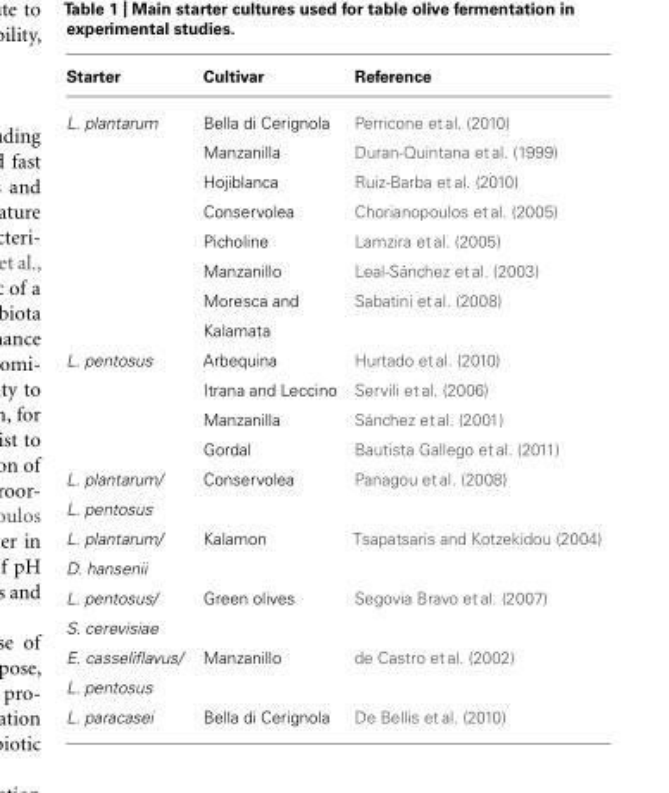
<table><thead><tr><td>Starter</td><td>Cultivar</td><td>Reference</td></tr></thead><tbody><tr><td rowspan="8">L. plantarum</td><td>Bella di Cerignola</td><td>Perricone et al. (2010)</td></tr><tr><td>Manzanilla</td><td>Duran-Quintana et al. (1999)</td></tr><tr><td>Hojiblanca</td><td>Ruiz-Barba et al. (2010)</td></tr><tr><td>Conservolea</td><td>Chorianopoulos et al. (2005)</td></tr><tr><td>Picholine</td><td>Lamzira et al. (2005)</td></tr><tr><td>Manzanillo</td><td>Leal-Sánchez et al. (2003)</td></tr><tr><td>Moresca and</td><td>Sabatini et al. (2008)</td></tr><tr><td>Kalamata</td><td></td></tr><tr><td rowspan="4">L. pentosus</td><td>Arbequina</td><td>Hurtado et al. (2010)</td></tr><tr><td>Itrana and Leccino</td><td>Servili et al. (2006)</td></tr><tr><td>Manzanilla</td><td>Sánchez et al. (2001)</td></tr><tr><td>Gordal</td><td>Bautista Gallego et al. (2011)</td></tr><tr><td>L. plantarum/</td><td>Conservolea</td><td>Panagou et al. (2008)</td></tr><tr><td colspan="3">L. pentosus</td></tr><tr><td>L. plantarum/</td><td>Kalamon</td><td>Tsapatsaris and Kotzekidou (2004)</td></tr><tr><td colspan="3">D. hansenii</td></tr><tr><td>L. pentosus/</td><td>Green olives</td><td>Segovia Bravo et al. (2007)</td></tr><tr><td colspan="3">S. cerevisiae</td></tr><tr><td>E. casseliflavus/</td><td>Manzanillo</td><td>de Castro et al. (2002)</td></tr><tr><td colspan="3">L. pentosus</td></tr><tr><td>L. paracasei</td><td>Bella di Cerignola</td><td>De Bellis et al. (2010)</td></tr></tbody></table>